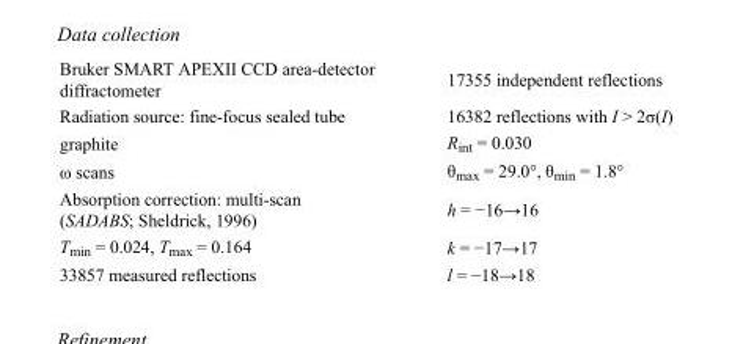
<table><tbody><tr><td>Bruker SMART APEXII CCD area-detector diffractometer</td><td>17355 independent reflections</td></tr><tr><td>Radiation source: fine-focus sealed tube</td><td>16382 reflections with I &gt; 2σ(I)</td></tr><tr><td>graphite</td><td>R<sub>int</sub> = 0.030</td></tr><tr><td>ω scans</td><td>θ<sub>max</sub> = 29.0°, θ<sub>min</sub> = 1.8°</td></tr><tr><td>Absorption correction: multi-scan (SADABS; Sheldrick, 1996)</td><td>h = −16→16</td></tr><tr><td>T<sub>min</sub> = 0.024, T<sub>max</sub> = 0.164</td><td>k = −17→17</td></tr><tr><td>33857 measured reflections</td><td>l = −18→18</td></tr></tbody></table>